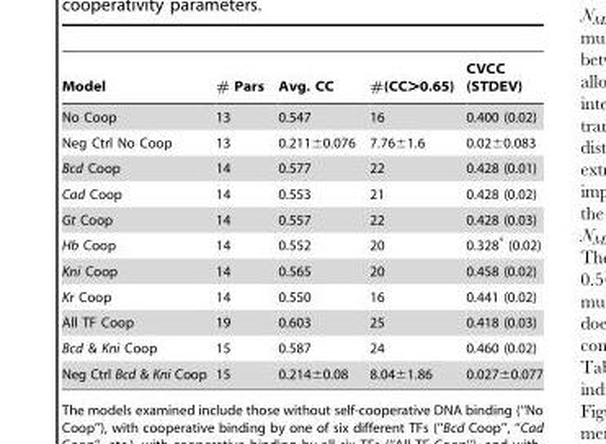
<table><thead><tr><td>Model</td><td># Pars</td><td>Avg. CC</td><td>#(CC&gt;0.65)</td><td>CVCC (STDEV)</td></tr></thead><tbody><tr><td>No Coop</td><td>13</td><td>0.547</td><td>16</td><td>0.400 (0.02)</td></tr><tr><td>Neg Ctrl No Coop</td><td>13</td><td>0.211±0.076</td><td>7.76±1.6</td><td>0.02±0.083</td></tr><tr><td>Bcd Coop</td><td>14</td><td>0.577</td><td>22</td><td>0.428 (0.01)</td></tr><tr><td>Cad Coop</td><td>14</td><td>0.553</td><td>21</td><td>0.428 (0.02)</td></tr><tr><td>Gt Coop</td><td>14</td><td>0.557</td><td>22</td><td>0.428 (0.03)</td></tr><tr><td>Hb Coop</td><td>14</td><td>0.552</td><td>20</td><td>0.328* (0.02)</td></tr><tr><td>Kni Coop</td><td>14</td><td>0.565</td><td>20</td><td>0.458 (0.02)</td></tr><tr><td>Kr Coop</td><td>14</td><td>0.550</td><td>16</td><td>0.441 (0.02)</td></tr><tr><td>All TF Coop</td><td>19</td><td>0.603</td><td>25</td><td>0.418 (0.03)</td></tr><tr><td>Bcd &amp; Kni Coop</td><td>15</td><td>0.587</td><td>24</td><td>0.460 (0.02)</td></tr><tr><td>Neg Ctrl Bcd &amp; Kni Coop</td><td>15</td><td>0.214±0.08</td><td>8.04±1.86</td><td>0.027±0.077</td></tr></tbody></table>